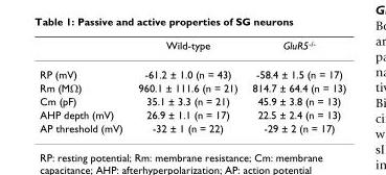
<table><thead><tr><td></td><td>Wild-type</td><td>GluR5<sup>-/-</sup></td></tr></thead><tbody><tr><td>RP (mV)</td><td>-61.2 ± 1.0 (n = 43)</td><td>-58.4 ± 1.5 (n = 17)</td></tr><tr><td>Rm (MΩ)</td><td>960.1 ± 111.6 (n = 21)</td><td>814.7 ± 64.4 (n = 13)</td></tr><tr><td>Cm (pF)</td><td>35.1 ± 3.3 (n = 21)</td><td>45.9 ± 3.8 (n = 13)</td></tr><tr><td>AHP depth (mV)</td><td>26.9 ± 1.1 (n = 17)</td><td>22.5 ± 2.4 (n = 13)</td></tr><tr><td>AP threshold (mV)</td><td>-32 ± 1 (n = 22)</td><td>-29 ± 2 (n = 17)</td></tr></tbody></table>